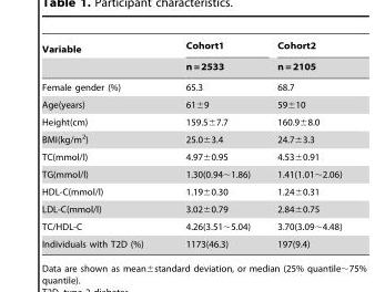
<table><thead><tr><td rowspan="2">Variable</td><td rowspan="2">Cohort1 n = 2533</td><td rowspan="2">Cohort2 n = 2105</td></tr><tr></tr></thead><tbody><tr><td>Female gender (%)</td><td>65.3</td><td>68.7</td></tr><tr><td>Age(years)</td><td>61±9</td><td>59±10</td></tr><tr><td>Height(cm)</td><td>159.5±7.7</td><td>160.9±8.0</td></tr><tr><td>BMI(kg/m<sup>2</sup>)</td><td>25.0±3.4</td><td>24.7±3.3</td></tr><tr><td>TC(mmol/l)</td><td>4.97±0.95</td><td>4.53±0.91</td></tr><tr><td>TG(mmol/l)</td><td>1.30(0.94∼1.86)</td><td>1.41(1.01∼2.06)</td></tr><tr><td>HDL-C(mmol/l)</td><td>1.19±0.30</td><td>1.24±0.31</td></tr><tr><td>LDL-C(mmol/l)</td><td>3.02±0.79</td><td>2.84±0.75</td></tr><tr><td>TC/HDL-C</td><td>4.26(3.51∼5.04)</td><td>3.70(3.09∼4.48)</td></tr><tr><td>Individuals with T2D (%)</td><td>1173(46.3)</td><td>197(9.4)</td></tr></tbody></table>